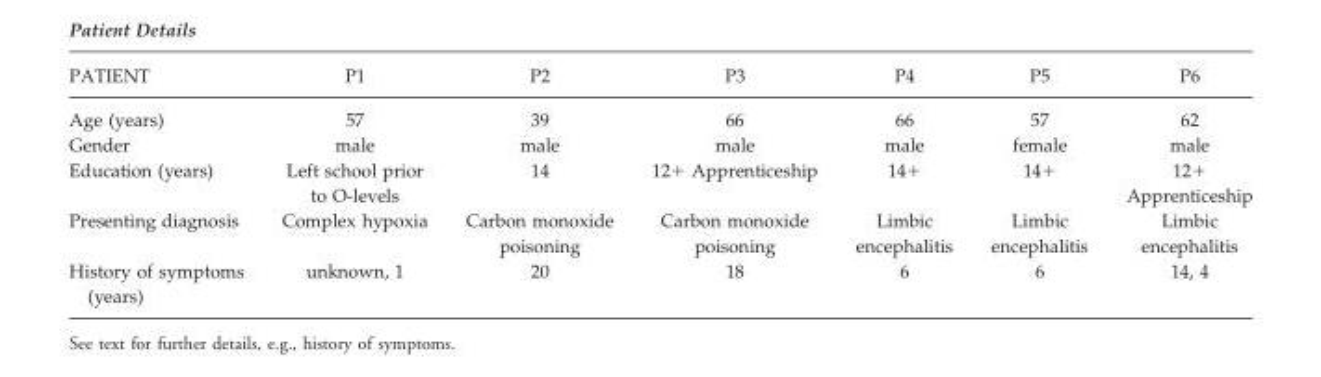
<table><thead><tr><td>PATIENT</td><td>P1</td><td>P2</td><td>P3</td><td>P4</td><td>P5</td><td>P6</td></tr></thead><tbody><tr><td>Age (years)</td><td>57</td><td>39</td><td>66</td><td>66</td><td>57</td><td>62</td></tr><tr><td>Gender</td><td>male</td><td>male</td><td>male</td><td>male</td><td>female</td><td>male</td></tr><tr><td>Education (years)</td><td>Left school prior to O-levels</td><td>14</td><td>12+ Apprenticeship</td><td>14+</td><td>14+</td><td>12+ Apprenticeship</td></tr><tr><td>Presenting diagnosis</td><td>Complex hypoxia</td><td>Carbon monoxide poisoning</td><td>Carbon monoxide poisoning</td><td>Limbic encephalitis</td><td>Limbic encephalitis</td><td>Limbic encephalitis</td></tr><tr><td>History of symptoms (years)</td><td>unknown, 1</td><td>20</td><td>18</td><td>6</td><td>6</td><td>14, 4</td></tr></tbody></table>